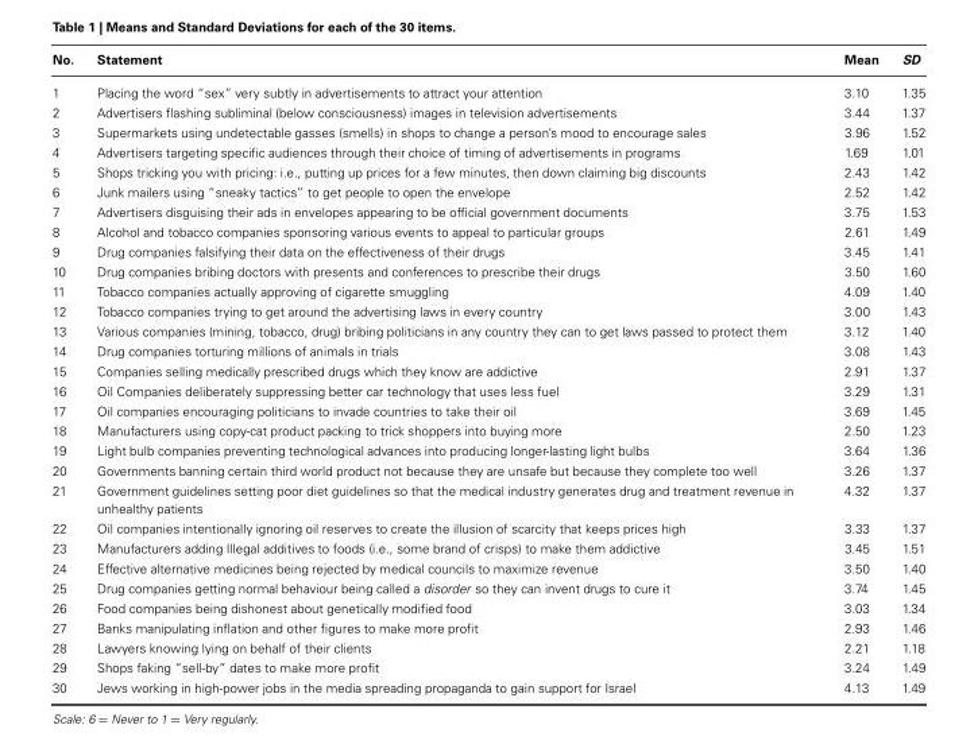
<table><thead><tr><td>No.</td><td>Statement</td><td>Mean</td><td>SD</td></tr></thead><tbody><tr><td>1</td><td>Placing the word “sex” very subtly in advertisements to attract your attention</td><td>3.10</td><td>1.35</td></tr><tr><td>2</td><td>Advertisers flashing subliminal (below consciousness) images in television advertisements</td><td>3.44</td><td>1.37</td></tr><tr><td>3</td><td>Supermarkets using undetectable gasses (smells) in shops to change a person’s mood to encourage sales</td><td>3.96</td><td>1.52</td></tr><tr><td>4</td><td>Advertisers targeting specific audiences through their choice of timing of advertisements in programs</td><td>1.69</td><td>1.01</td></tr><tr><td>5</td><td>Shops tricking you with pricing: i.e., putting up prices for a few minutes, then down claiming big discounts</td><td>2.43</td><td>1.42</td></tr><tr><td>6</td><td>Junk mailers using “sneaky tactics” to get people to open the envelope</td><td>2.52</td><td>1.42</td></tr><tr><td>7</td><td>Advertisers disguising their ads in envelopes appearing to be official government documents</td><td>3.75</td><td>1.53</td></tr><tr><td>8</td><td>Alcohol and tobacco companies sponsoring various events to appeal to particular groups</td><td>2.61</td><td>1.49</td></tr><tr><td>9</td><td>Drug companies falsifying their data on the effectiveness of their drugs</td><td>3.45</td><td>1.41</td></tr><tr><td>10</td><td>Drug companies bribing doctors with presents and conferences to prescribe their drugs</td><td>3.50</td><td>1.60</td></tr><tr><td>11</td><td>Tobacco companies actually approving of cigarette smuggling</td><td>4.09</td><td>1.40</td></tr><tr><td>12</td><td>Tobacco companies trying to get around the advertising laws in every country</td><td>3.00</td><td>1.43</td></tr><tr><td>13</td><td>Various companies (mining, tobacco, drug) bribing politicians in any country they can to get laws passed to protect them</td><td>3.12</td><td>1.40</td></tr><tr><td>14</td><td>Drug companies torturing millions of animals in trials</td><td>3.08</td><td>1.43</td></tr><tr><td>15</td><td>Companies selling medically prescribed drugs which they know are addictive</td><td>2.91</td><td>1.37</td></tr><tr><td>16</td><td>Oil Companies deliberately suppressing better car technology that uses less fuel</td><td>3.29</td><td>1.31</td></tr><tr><td>17</td><td>Oil companies encouraging politicians to invade countries to take their oil</td><td>3.69</td><td>1.45</td></tr><tr><td>18</td><td>Manufacturers using copy-cat product packing to trick shoppers into buying more</td><td>2.50</td><td>1.23</td></tr><tr><td>19</td><td>Light bulb companies preventing technological advances into producing longer-lasting light bulbs</td><td>3.64</td><td>1.36</td></tr><tr><td>20</td><td>Governments banning certain third world product not because they are unsafe but because they complete too well</td><td>3.26</td><td>1.37</td></tr><tr><td>21</td><td>Government guidelines setting poor diet guidelines so that the medical industry generates drug and treatment revenue in unhealthy patients</td><td>4.32</td><td>1.37</td></tr><tr><td>22</td><td>Oil companies intentionally ignoring oil reserves to create the illusion of scarcity that keeps prices high</td><td>3.33</td><td>1.37</td></tr><tr><td>23</td><td>Manufacturers adding Illegal additives to foods (i.e., some brand of crisps) to make them addictive</td><td>3.45</td><td>1.51</td></tr><tr><td>24</td><td>Effective alternative medicines being rejected by medical councils to maximize revenue</td><td>3.50</td><td>1.40</td></tr><tr><td>25</td><td>Drug companies getting normal behaviour being called a disorder so they can invent drugs to cure it</td><td>3.74</td><td>1.45</td></tr><tr><td>26</td><td>Food companies being dishonest about genetically modified food</td><td>3.03</td><td>1.34</td></tr><tr><td>27</td><td>Banks manipulating inflation and other figures to make more profit</td><td>2.93</td><td>1.46</td></tr><tr><td>28</td><td>Lawyers knowing lying on behalf of their clients</td><td>2.21</td><td>1.18</td></tr><tr><td>29</td><td>Shops faking “sell-by” dates to make more profit</td><td>3.24</td><td>1.49</td></tr><tr><td>30</td><td>Jews working in high-power jobs in the media spreading propaganda to gain support for Israel</td><td>4.13</td><td>1.49</td></tr></tbody></table>